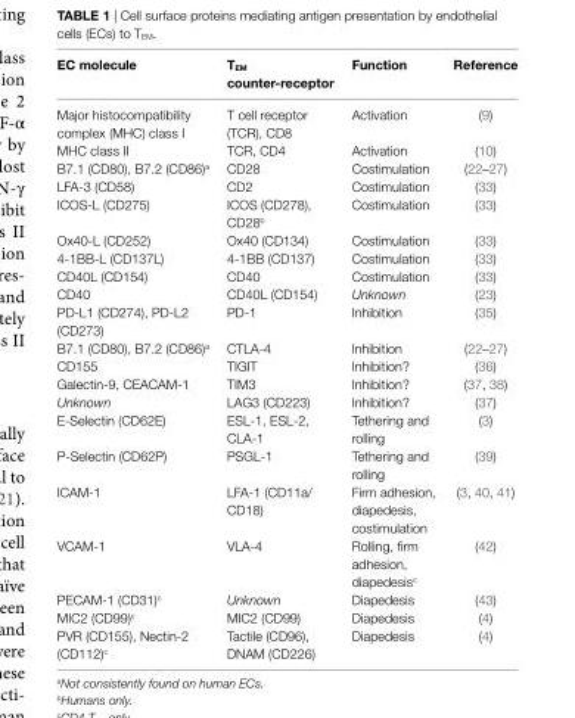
<table><thead><tr><td>eC molecule</td><td>T<sub>eM</sub> counter-receptor</td><td>Function</td><td>Reference</td></tr></thead><tbody><tr><td>Major histocompatibility complex (MHC) class I</td><td>T cell receptor (TCR), CD8</td><td>Activation</td><td>(9)</td></tr><tr><td>MHC class II</td><td>TCR, CD4</td><td>Activation</td><td>(10)</td></tr><tr><td>B7.1 (CD80), B7.2 (CD86)<sup>a</sup></td><td>CD28</td><td>Costimulation</td><td>(22–27)</td></tr><tr><td>LFA-3 (CD58)</td><td>CD2</td><td>Costimulation</td><td>(33)</td></tr><tr><td>ICOS-L (CD275)</td><td>ICOS (CD278), CD28<sup>b</sup></td><td>Costimulation</td><td>(33)</td></tr><tr><td>Ox40-L (CD252)</td><td>Ox40 (CD134)</td><td>Costimulation</td><td>(33)</td></tr><tr><td>4-1BB-L (CD137L)</td><td>4-1BB (CD137)</td><td>Costimulation</td><td>(33)</td></tr><tr><td>CD40L (CD154)</td><td>CD40</td><td>Costimulation</td><td>(33)</td></tr><tr><td>CD40</td><td>CD40L (CD154)</td><td>Unknown</td><td>(23)</td></tr><tr><td>PD-L1 (CD274), PD-L2 (CD273)</td><td>PD-1</td><td>Inhibition</td><td>(35)</td></tr><tr><td>B7.1 (CD80), B7.2 (CD86)<sup>a</sup></td><td>CTLA-4</td><td>Inhibition</td><td>(22–27)</td></tr><tr><td>CD155</td><td>TIGIT</td><td>Inhibition?</td><td>(36)</td></tr><tr><td>Galectin-9, CEACAM-1</td><td>TIM3</td><td>Inhibition?</td><td>(37, 38)</td></tr><tr><td>Unknown</td><td>LAG3 (CD223)</td><td>Inhibition?</td><td>(37)</td></tr><tr><td>E-Selectin (CD62E)</td><td>ESL-1, ESL-2, CLA-1</td><td>Tethering and rolling</td><td>(3)</td></tr><tr><td>P-Selectin (CD62P)</td><td>PSGL-1</td><td>Tethering and rolling</td><td>(39)</td></tr><tr><td>ICAM-1</td><td>LFA-1 (CD11a/ CD18)</td><td>Firm adhesion, diapedesis, costimulation</td><td>(3, 40, 41)</td></tr><tr><td>VCAM-1</td><td>VLA-4</td><td>Rolling, firm adhesion, diapedesis<sup>c</sup></td><td>(42)</td></tr><tr><td>PECAM-1 (CD31)<sup>c</sup></td><td>Unknown</td><td>Diapedesis</td><td>(43)</td></tr><tr><td>MIC2 (CD99)<sup>c</sup></td><td>MIC2 (CD99)</td><td>Diapedesis</td><td>(4)</td></tr><tr><td>PVR (CD155), Nectin-2 (CD112)<sup>c</sup></td><td>Tactile (CD96), DNAM (CD226)</td><td>Diapedesis</td><td>(4)</td></tr></tbody></table>